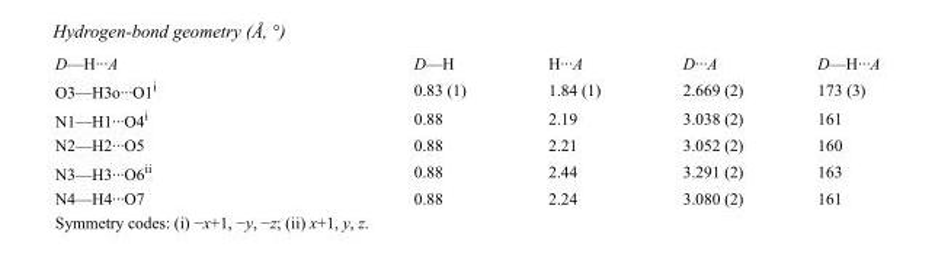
<table><tbody><tr><td>D—H···A</td><td>D—H</td><td>H···A</td><td>D···A</td><td>D—H···A</td></tr><tr><td>O3—H3o···O1<sup>i</sup></td><td>0.83 (1)</td><td>1.84 (1)</td><td>2.669 (2)</td><td>173 (3)</td></tr><tr><td>N1—H1···O4<sup>i</sup></td><td>0.88</td><td>2.19</td><td>3.038 (2)</td><td>161</td></tr><tr><td>N2—H2···O5</td><td>0.88</td><td>2.21</td><td>3.052 (2)</td><td>160</td></tr><tr><td>N3—H3···O6<sup>ii</sup></td><td>0.88</td><td>2.44</td><td>3.291 (2)</td><td>163</td></tr><tr><td>N4—H4···O7</td><td>0.88</td><td>2.24</td><td>3.080 (2)</td><td>161</td></tr></tbody></table>